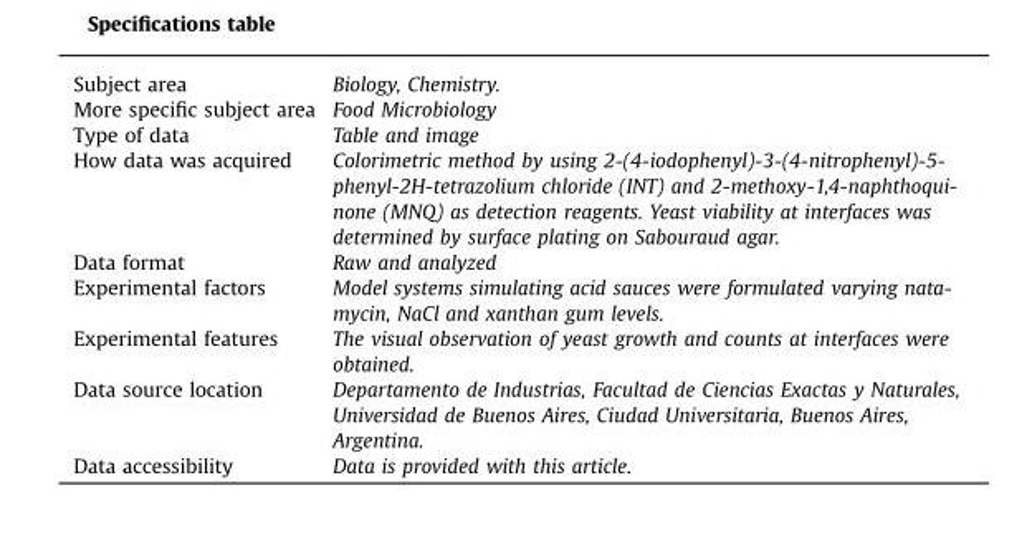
<table><tbody><tr><td>Subject area</td><td>Biology, Chemistry.</td></tr><tr><td>More specific subject area</td><td>Food Microbiology</td></tr><tr><td>Type of data</td><td>Table and image</td></tr><tr><td>How data was acquired</td><td>Colorimetric method by using 2-(4-iodophenyl)-3-(4-nitrophenyl)-5- phenyl-2H-tetrazolium chloride (INT) and 2-methoxy-1,4-naphthoqui- none (MNQ) as detection reagents. Yeast viability at interfaces was determined by surface plating on Sabouraud agar.</td></tr><tr><td>Data format</td><td>Raw and analyzed</td></tr><tr><td>Experimental factors</td><td>Model systems simulating acid sauces were formulated varying nata- mycin, NaCl and xanthan gum levels.</td></tr><tr><td>Experimental features</td><td>The visual observation of yeast growth and counts at interfaces were obtained.</td></tr><tr><td>Data source location</td><td>Departamento de Industrias, Facultad de Ciencias Exactas y Naturales, Universidad de Buenos Aires, Ciudad Universitaria, Buenos Aires, Argentina.</td></tr><tr><td>Data accessibility</td><td>Data is provided with this article.</td></tr></tbody></table>